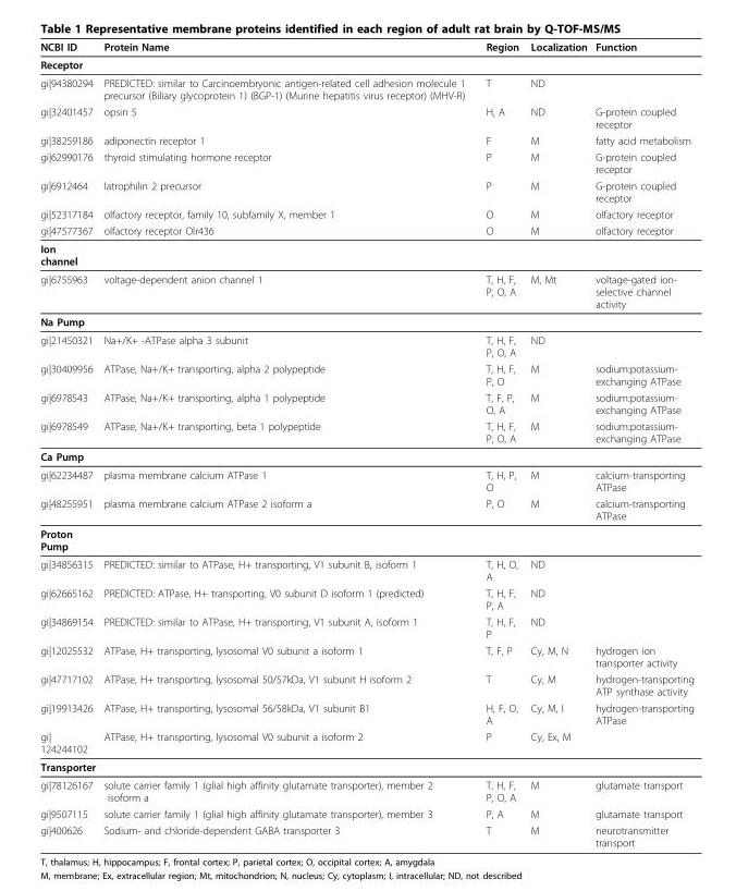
<table><thead><tr><td>NCBI ID</td><td>Protein Name</td><td>Region</td><td>Localization</td><td>Function</td></tr></thead><tbody><tr><td colspan="5">Receptor</td></tr><tr><td>gi|94380294</td><td>PREDICTED: similar to Carcinoembryonic antigen-related cell adhesion molecule 1 precursor (Biliary glycoprotein 1) (BGP-1) (Murine hepatitis virus receptor) (MHV-R)</td><td>T</td><td>ND</td><td></td></tr><tr><td>gi|32401457</td><td>opsin 5</td><td>H, A</td><td>ND</td><td>G-protein coupled receptor</td></tr><tr><td>gi|38259186</td><td>adiponectin receptor 1</td><td>F</td><td>M</td><td>fatty acid metabolism</td></tr><tr><td>gi|62990176</td><td>thyroid stimulating hormone receptor</td><td>P</td><td>M</td><td>G-protein coupled receptor</td></tr><tr><td>gi|6912464</td><td>latrophilin 2 precursor</td><td>P</td><td>M</td><td>G-protein coupled receptor</td></tr><tr><td>gi|52317184</td><td>olfactory receptor, family 10, subfamily X, member 1</td><td>O</td><td>M</td><td>olfactory receptor</td></tr><tr><td>gi|47577367</td><td>olfactory receptor Olr436</td><td>O</td><td>M</td><td>olfactory receptor</td></tr><tr><td colspan="5">Ion channel</td></tr><tr><td>gi|6755963</td><td>voltage-dependent anion channel 1</td><td>T, H, F, P, O, A</td><td>M, Mt</td><td>voltage-gated ion- selective channel activity</td></tr><tr><td colspan="5">Na Pump</td></tr><tr><td>gi|21450321</td><td>Na+/K+ -ATPase alpha 3 subunit</td><td>T, H, F, P, O, A</td><td>ND</td><td></td></tr><tr><td>gi|30409956</td><td>ATPase, Na+/K+ transporting, alpha 2 polypeptide</td><td>T, H, F, P, O</td><td>M</td><td>sodium:potassium- exchanging ATPase</td></tr><tr><td>gi|6978543</td><td>ATPase, Na+/K+ transporting, alpha 1 polypeptide</td><td>T, F, P, O, A</td><td>M</td><td>sodium:potassium- exchanging ATPase</td></tr><tr><td>gi|6978549</td><td>ATPase, Na+/K+ transporting, beta 1 polypeptide</td><td>T, H, F, P, O, A</td><td>M</td><td>sodium:potassium- exchanging ATPase</td></tr><tr><td colspan="5">Ca Pump</td></tr><tr><td>gi|62234487</td><td>plasma membrane calcium ATPase 1</td><td>T, H, P, O</td><td>M</td><td>calcium-transporting ATPase</td></tr><tr><td>gi|48255951</td><td>plasma membrane calcium ATPase 2 isoform a</td><td>P, O</td><td>M</td><td>calcium-transporting ATPase</td></tr><tr><td colspan="5">Proton Pump</td></tr><tr><td>gi|34856315</td><td>PREDICTED: similar to ATPase, H+ transporting, V1 subunit B, isoform 1</td><td>T, H, O, A</td><td>ND</td><td></td></tr><tr><td>gi|62665162</td><td>PREDICTED: ATPase, H+ transporting, V0 subunit D isoform 1 (predicted)</td><td>T, H, F, P, A</td><td>ND</td><td></td></tr><tr><td>gi|34869154</td><td>PREDICTED: similar to ATPase, H+ transporting, V1 subunit A, isoform 1</td><td>T, H, F, P</td><td>ND</td><td></td></tr><tr><td>gi|12025532</td><td>ATPase, H+ transporting, lysosomal V0 subunit a isoform 1</td><td>T, F, P</td><td>Cy, M, N</td><td>hydrogen ion transporter activity</td></tr><tr><td>gi|47717102</td><td>ATPase, H+ transporting, lysosomal 50/57kDa, V1 subunit H isoform 2</td><td>T</td><td>Cy, M</td><td>hydrogen-transporting ATP synthase activity</td></tr><tr><td>gi|19913426</td><td>ATPase, H+ transporting, lysosomal 56/58kDa, V1 subunit B1</td><td>H, F, O, A</td><td>Cy, M, I</td><td>hydrogen-transporting ATPase</td></tr><tr><td>gi| 124244102</td><td>ATPase, H+ transporting, lysosomal V0 subunit a isoform 2</td><td>P</td><td>Cy, Ex, M</td><td></td></tr><tr><td colspan="5">Transporter</td></tr><tr><td>gi|78126167</td><td>solute carrier family 1 (glial high affinity glutamate transporter), member 2 isoform a</td><td>T, H, F, P, O, A</td><td>M</td><td>glutamate transport</td></tr><tr><td>gi|9507115</td><td>solute carrier family 1 (glial high affinity glutamate transporter), member 3</td><td>P, A</td><td>M</td><td>glutamate transport</td></tr><tr><td>gi|400626</td><td>Sodium- and chloride-dependent GABA transporter 3</td><td>T</td><td>M</td><td>neurotransmitter transport</td></tr></tbody></table>